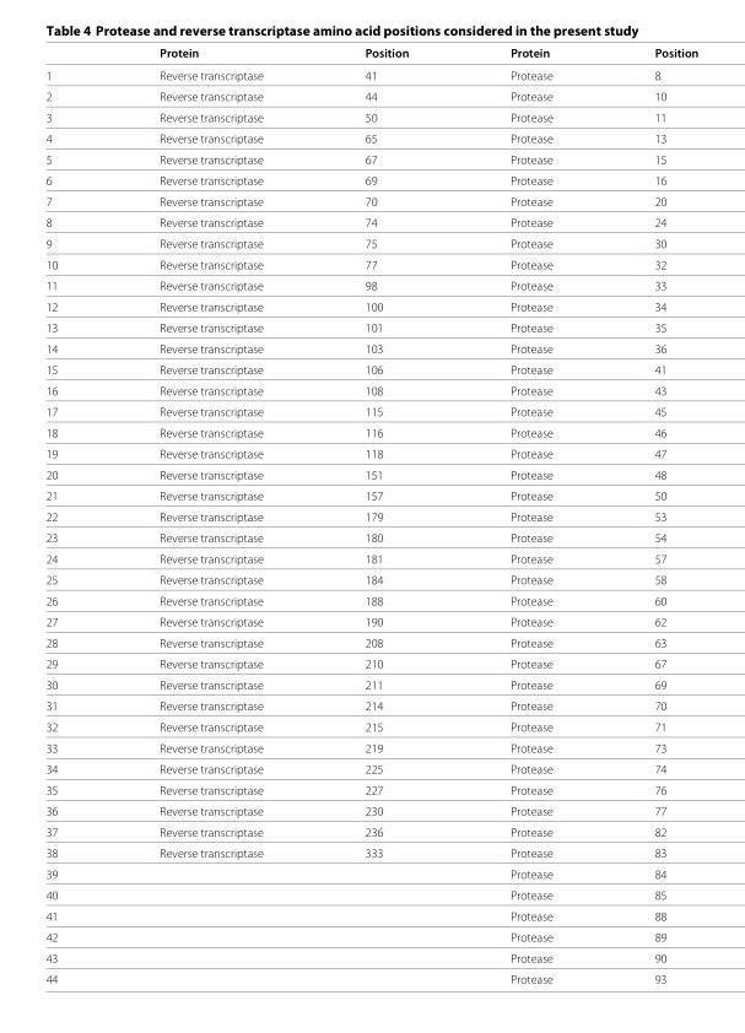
<table><thead><tr><td></td><td>Protein</td><td>Position</td><td>Protein</td><td>Position</td></tr></thead><tbody><tr><td>1</td><td>Reverse transcriptase</td><td>41</td><td>Protease</td><td>8</td></tr><tr><td>2</td><td>Reverse transcriptase</td><td>44</td><td>Protease</td><td>10</td></tr><tr><td>3</td><td>Reverse transcriptase</td><td>50</td><td>Protease</td><td>11</td></tr><tr><td>4</td><td>Reverse transcriptase</td><td>65</td><td>Protease</td><td>13</td></tr><tr><td>5</td><td>Reverse transcriptase</td><td>67</td><td>Protease</td><td>15</td></tr><tr><td>6</td><td>Reverse transcriptase</td><td>69</td><td>Protease</td><td>16</td></tr><tr><td>7</td><td>Reverse transcriptase</td><td>70</td><td>Protease</td><td>20</td></tr><tr><td>8</td><td>Reverse transcriptase</td><td>74</td><td>Protease</td><td>24</td></tr><tr><td>9</td><td>Reverse transcriptase</td><td>75</td><td>Protease</td><td>30</td></tr><tr><td>10</td><td>Reverse transcriptase</td><td>77</td><td>Protease</td><td>32</td></tr><tr><td>11</td><td>Reverse transcriptase</td><td>98</td><td>Protease</td><td>33</td></tr><tr><td>12</td><td>Reverse transcriptase</td><td>100</td><td>Protease</td><td>34</td></tr><tr><td>13</td><td>Reverse transcriptase</td><td>101</td><td>Protease</td><td>35</td></tr><tr><td>14</td><td>Reverse transcriptase</td><td>103</td><td>Protease</td><td>36</td></tr><tr><td>15</td><td>Reverse transcriptase</td><td>106</td><td>Protease</td><td>41</td></tr><tr><td>16</td><td>Reverse transcriptase</td><td>108</td><td>Protease</td><td>43</td></tr><tr><td>17</td><td>Reverse transcriptase</td><td>115</td><td>Protease</td><td>45</td></tr><tr><td>18</td><td>Reverse transcriptase</td><td>116</td><td>Protease</td><td>46</td></tr><tr><td>19</td><td>Reverse transcriptase</td><td>118</td><td>Protease</td><td>47</td></tr><tr><td>20</td><td>Reverse transcriptase</td><td>151</td><td>Protease</td><td>48</td></tr><tr><td>21</td><td>Reverse transcriptase</td><td>157</td><td>Protease</td><td>50</td></tr><tr><td>22</td><td>Reverse transcriptase</td><td>179</td><td>Protease</td><td>53</td></tr><tr><td>23</td><td>Reverse transcriptase</td><td>180</td><td>Protease</td><td>54</td></tr><tr><td>24</td><td>Reverse transcriptase</td><td>181</td><td>Protease</td><td>57</td></tr><tr><td>25</td><td>Reverse transcriptase</td><td>184</td><td>Protease</td><td>58</td></tr><tr><td>26</td><td>Reverse transcriptase</td><td>188</td><td>Protease</td><td>60</td></tr><tr><td>27</td><td>Reverse transcriptase</td><td>190</td><td>Protease</td><td>62</td></tr><tr><td>28</td><td>Reverse transcriptase</td><td>208</td><td>Protease</td><td>63</td></tr><tr><td>29</td><td>Reverse transcriptase</td><td>210</td><td>Protease</td><td>67</td></tr><tr><td>30</td><td>Reverse transcriptase</td><td>211</td><td>Protease</td><td>69</td></tr><tr><td>31</td><td>Reverse transcriptase</td><td>214</td><td>Protease</td><td>70</td></tr><tr><td>32</td><td>Reverse transcriptase</td><td>215</td><td>Protease</td><td>71</td></tr><tr><td>33</td><td>Reverse transcriptase</td><td>219</td><td>Protease</td><td>73</td></tr><tr><td>34</td><td>Reverse transcriptase</td><td>225</td><td>Protease</td><td>74</td></tr><tr><td>35</td><td>Reverse transcriptase</td><td>227</td><td>Protease</td><td>76</td></tr><tr><td>36</td><td>Reverse transcriptase</td><td>230</td><td>Protease</td><td>77</td></tr><tr><td>37</td><td>Reverse transcriptase</td><td>236</td><td>Protease</td><td>82</td></tr><tr><td>38</td><td>Reverse transcriptase</td><td>333</td><td>Protease</td><td>83</td></tr><tr><td>39</td><td></td><td></td><td>Protease</td><td>84</td></tr><tr><td>40</td><td></td><td></td><td>Protease</td><td>85</td></tr><tr><td>41</td><td></td><td></td><td>Protease</td><td>88</td></tr><tr><td>42</td><td></td><td></td><td>Protease</td><td>89</td></tr><tr><td>43</td><td></td><td></td><td>Protease</td><td>90</td></tr><tr><td>44</td><td></td><td></td><td>Protease</td><td>93</td></tr></tbody></table>